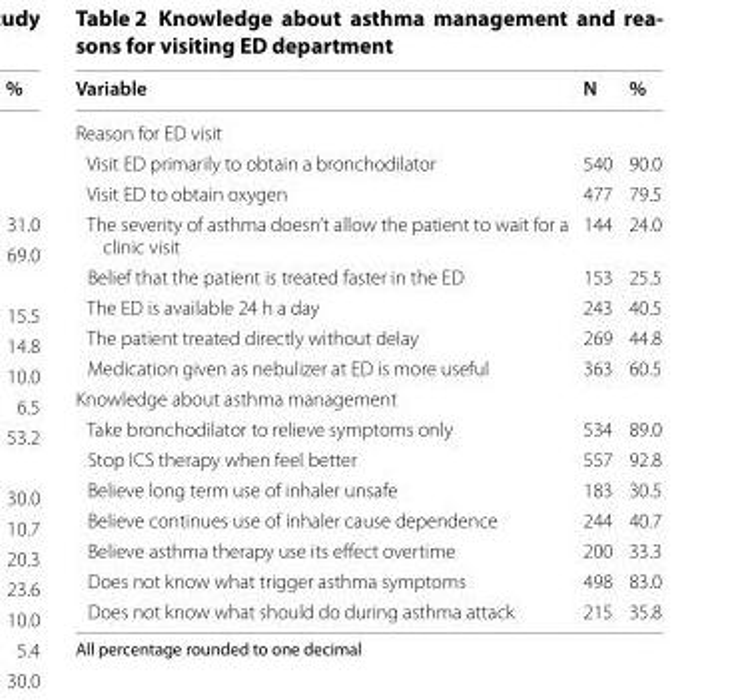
<table><thead><tr><td>Variable</td><td>N</td><td>%</td></tr></thead><tbody><tr><td colspan="3">Reason for ED visit</td></tr><tr><td>Visit ED primarily to obtain a bronchodilator</td><td>540</td><td>90.0</td></tr><tr><td>Visit ED to obtain oxygen</td><td>477</td><td>79.5</td></tr><tr><td>The severity of asthma doesn’t allow the patient to wait for a clinic visit</td><td>144</td><td>24.0</td></tr><tr><td>Belief that the patient is treated faster in the ED</td><td>153</td><td>25.5</td></tr><tr><td>The ED is available 24 h a day</td><td>243</td><td>40.5</td></tr><tr><td>The patient treated directly without delay</td><td>269</td><td>44.8</td></tr><tr><td>Medication given as nebulizer at ED is more useful</td><td>363</td><td>60.5</td></tr><tr><td colspan="3">Knowledge about asthma management</td></tr><tr><td>Take bronchodilator to relieve symptoms only</td><td>534</td><td>89.0</td></tr><tr><td>Stop ICS therapy when feel better</td><td>557</td><td>92.8</td></tr><tr><td>Believe long term use of inhaler unsafe</td><td>183</td><td>30.5</td></tr><tr><td>Believe continues use of inhaler cause dependence</td><td>244</td><td>40.7</td></tr><tr><td>Believe asthma therapy use its effect overtime</td><td>200</td><td>33.3</td></tr><tr><td>Does not know what trigger asthma symptoms</td><td>498</td><td>83.0</td></tr><tr><td>Does not know what should do during asthma attack</td><td>215</td><td>35.8</td></tr></tbody></table>